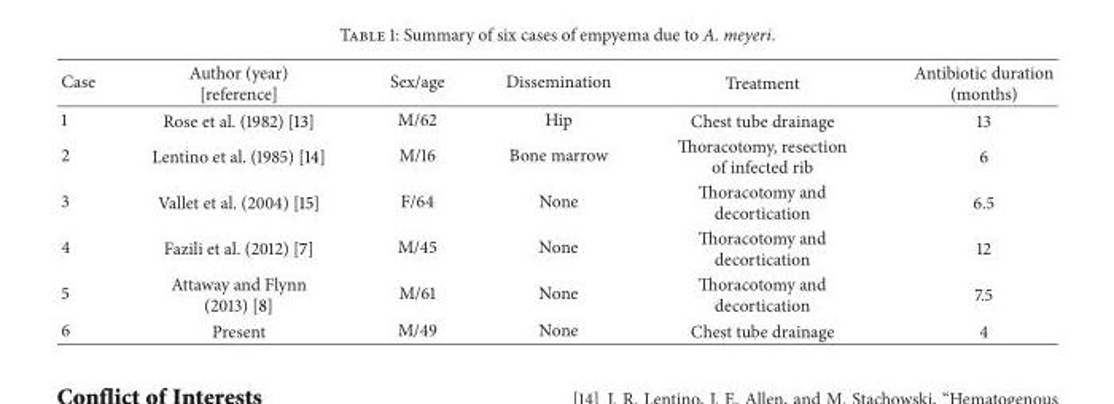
<table><thead><tr><td>Case</td><td>Author (year) [reference]</td><td>Sex/age</td><td>Dissemination</td><td>Treatment</td><td>Antibiotic duration (months)</td></tr></thead><tbody><tr><td>1</td><td>Rose et al. (1982) [13]</td><td>M/62</td><td>Hip</td><td>Chest tube drainage</td><td>13</td></tr><tr><td>2</td><td>Lentino et al. (1985) [14]</td><td>M/16</td><td>Bone marrow</td><td>Thoracotomy, resection of infected rib</td><td>6</td></tr><tr><td>3</td><td>Vallet et al. (2004) [15]</td><td>F/64</td><td>None</td><td>Thoracotomy and decortication</td><td>6.5</td></tr><tr><td>4</td><td>Fazili et al. (2012) [7]</td><td>M/45</td><td>None</td><td>Thoracotomy and decortication</td><td>12</td></tr><tr><td>5</td><td>Attaway and Flynn (2013) [8]</td><td>M/61</td><td>None</td><td>Thoracotomy and decortication</td><td>7.5</td></tr><tr><td>6</td><td>Present</td><td>M/49</td><td>None</td><td>Chest tube drainage</td><td>4</td></tr></tbody></table>